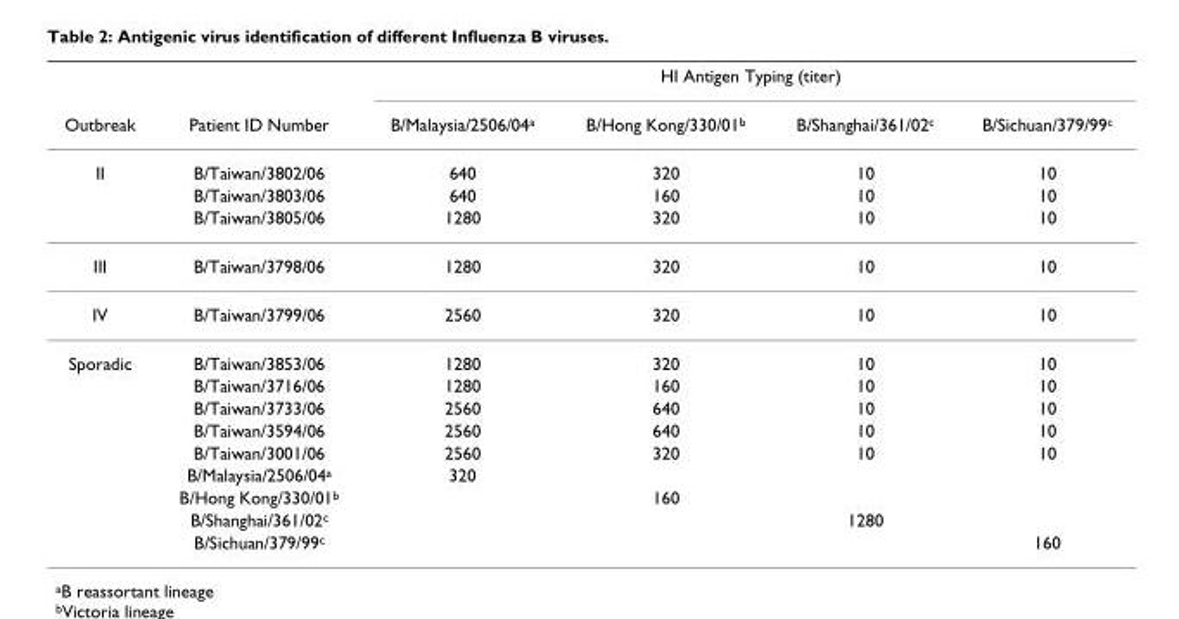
<table><thead><tr><td rowspan="2">Outbreak</td><td rowspan="2">Patient ID Number</td><td colspan="4">HI Antigen Typing (titer)</td></tr><tr><td>B/Malaysia/2506/04<sup>a</sup></td><td>B/Hong Kong/330/01<sup>b</sup></td><td>B/Shanghai/361/02<sup>c</sup></td><td>B/Sichuan/379/99<sup>c</sup></td></tr></thead><tbody><tr><td rowspan="3">II</td><td>B/Taiwan/3802/06</td><td>640</td><td>320</td><td>10</td><td>10</td></tr><tr><td>B/Taiwan/3803/06</td><td>640</td><td>160</td><td>10</td><td>10</td></tr><tr><td>B/Taiwan/3805/06</td><td>1280</td><td>320</td><td>10</td><td>10</td></tr><tr><td>III</td><td>B/Taiwan/3798/06</td><td>1280</td><td>320</td><td>10</td><td>10</td></tr><tr><td>IV</td><td>B/Taiwan/3799/06</td><td>2560</td><td>320</td><td>10</td><td>10</td></tr><tr><td rowspan="9">Sporadic</td><td>B/Taiwan/3853/06</td><td>1280</td><td>320</td><td>10</td><td>10</td></tr><tr><td>B/Taiwan/3716/06</td><td>1280</td><td>160</td><td>10</td><td>10</td></tr><tr><td>B/Taiwan/3733/06</td><td>2560</td><td>640</td><td>10</td><td>10</td></tr><tr><td>B/Taiwan/3594/06</td><td>2560</td><td>640</td><td>10</td><td>10</td></tr><tr><td>B/Taiwan/3001/06</td><td>2560</td><td>320</td><td>10</td><td>10</td></tr><tr><td>B/Malaysia/2506/04<sup>a</sup></td><td>320</td><td></td><td></td><td></td></tr><tr><td>B/Hong Kong/330/01<sup>b</sup></td><td></td><td>160</td><td></td><td></td></tr><tr><td>B/Shanghai/361/02<sup>c</sup></td><td></td><td></td><td>1280</td><td></td></tr><tr><td>B/Sichuan/379/99<sup>c</sup></td><td></td><td></td><td></td><td>160</td></tr></tbody></table>